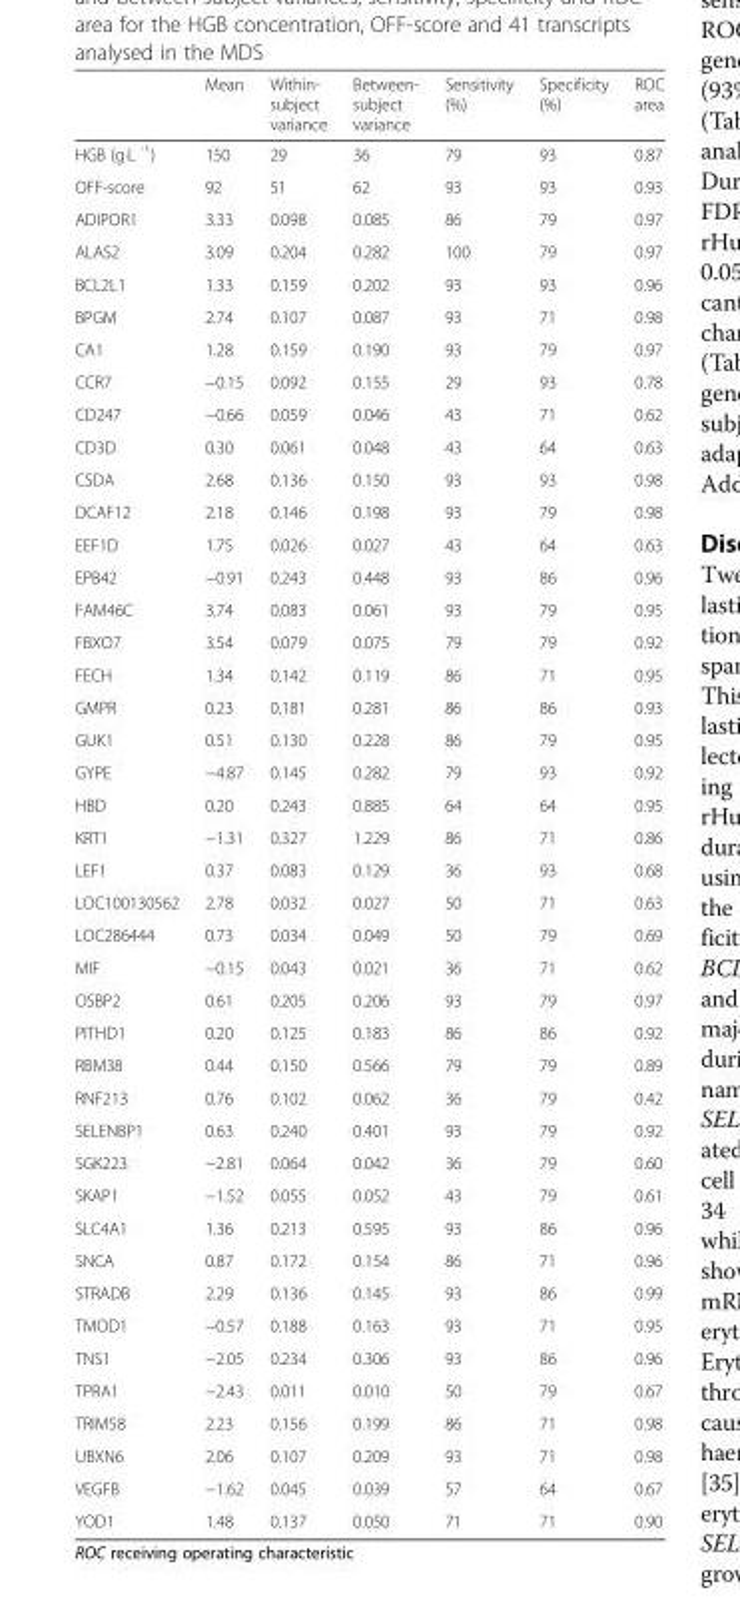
<table><thead><tr><td></td><td>Mean</td><td>Within- subject variance</td><td>Between- subject variance</td><td>Sensitivity (%)</td><td>Specificity (%)</td><td>ROC area</td></tr></thead><tbody><tr><td>HGB (g·L <sup>-1</sup>)</td><td>150</td><td>29</td><td>36</td><td>79</td><td>93</td><td>0.87</td></tr><tr><td>OFF-score</td><td>92</td><td>51</td><td>62</td><td>93</td><td>93</td><td>0.93</td></tr><tr><td>ADIPOR1</td><td>3.33</td><td>0.098</td><td>0.085</td><td>86</td><td>79</td><td>0.97</td></tr><tr><td>ALAS2</td><td>3.09</td><td>0.204</td><td>0.282</td><td>100</td><td>79</td><td>0.97</td></tr><tr><td>BCL2L1</td><td>1.33</td><td>0.159</td><td>0.202</td><td>93</td><td>93</td><td>0.96</td></tr><tr><td>BPGM</td><td>2.74</td><td>0.107</td><td>0.087</td><td>93</td><td>71</td><td>0.98</td></tr><tr><td>CA1</td><td>1.28</td><td>0.159</td><td>0.190</td><td>93</td><td>79</td><td>0.97</td></tr><tr><td>CCR7</td><td>−0.15</td><td>0.092</td><td>0.155</td><td>29</td><td>93</td><td>0.78</td></tr><tr><td>CD247</td><td>−0.66</td><td>0.059</td><td>0.046</td><td>43</td><td>71</td><td>0.62</td></tr><tr><td>CD3D</td><td>0.30</td><td>0.061</td><td>0.048</td><td>43</td><td>64</td><td>0.63</td></tr><tr><td>CSDA</td><td>2.68</td><td>0.136</td><td>0.150</td><td>93</td><td>93</td><td>0.98</td></tr><tr><td>DCAF12</td><td>2.18</td><td>0.146</td><td>0.198</td><td>93</td><td>79</td><td>0.98</td></tr><tr><td>EEF1D</td><td>1.75</td><td>0.026</td><td>0.027</td><td>43</td><td>64</td><td>0.63</td></tr><tr><td>EPB42</td><td>−0.91</td><td>0.243</td><td>0.448</td><td>93</td><td>86</td><td>0.96</td></tr><tr><td>FAM46C</td><td>3.74</td><td>0.083</td><td>0.061</td><td>93</td><td>79</td><td>0.95</td></tr><tr><td>FBXO7</td><td>3.54</td><td>0.079</td><td>0.075</td><td>79</td><td>79</td><td>0.92</td></tr><tr><td>FECH</td><td>1.34</td><td>0.142</td><td>0.119</td><td>86</td><td>71</td><td>0.95</td></tr><tr><td>GMPR</td><td>0.23</td><td>0.181</td><td>0.281</td><td>86</td><td>86</td><td>0.93</td></tr><tr><td>GUK1</td><td>0.51</td><td>0.130</td><td>0.228</td><td>86</td><td>79</td><td>0.95</td></tr><tr><td>GYPE</td><td>−4.87</td><td>0.145</td><td>0.282</td><td>79</td><td>93</td><td>0.92</td></tr><tr><td>HBD</td><td>0.20</td><td>0.243</td><td>0.885</td><td>64</td><td>64</td><td>0.95</td></tr><tr><td>KRT1</td><td>−1.31</td><td>0.327</td><td>1.229</td><td>86</td><td>71</td><td>0.86</td></tr><tr><td>LEF1</td><td>0.37</td><td>0.083</td><td>0.129</td><td>36</td><td>93</td><td>0.68</td></tr><tr><td>LOC100130562</td><td>2.78</td><td>0.032</td><td>0.027</td><td>50</td><td>71</td><td>0.63</td></tr><tr><td>LOC286444</td><td>0.73</td><td>0.034</td><td>0.049</td><td>50</td><td>79</td><td>0.69</td></tr><tr><td>MIF</td><td>−0.15</td><td>0.043</td><td>0.021</td><td>36</td><td>71</td><td>0.62</td></tr><tr><td>OSBP2</td><td>0.61</td><td>0.205</td><td>0.206</td><td>93</td><td>79</td><td>0.97</td></tr><tr><td>PITHD1</td><td>0.20</td><td>0.125</td><td>0.183</td><td>86</td><td>86</td><td>0.92</td></tr><tr><td>RBM38</td><td>0.44</td><td>0.150</td><td>0.566</td><td>79</td><td>79</td><td>0.89</td></tr><tr><td>RNF213</td><td>0.76</td><td>0.102</td><td>0.062</td><td>36</td><td>79</td><td>0.42</td></tr><tr><td>SELENBP1</td><td>0.63</td><td>0.240</td><td>0.401</td><td>93</td><td>79</td><td>0.92</td></tr><tr><td>SGK223</td><td>−2.81</td><td>0.064</td><td>0.042</td><td>36</td><td>79</td><td>0.60</td></tr><tr><td>SKAP1</td><td>−1.52</td><td>0.055</td><td>0.052</td><td>43</td><td>79</td><td>0.61</td></tr><tr><td>SLC4A1</td><td>1.36</td><td>0.213</td><td>0.595</td><td>93</td><td>86</td><td>0.96</td></tr><tr><td>SNCA</td><td>0.87</td><td>0.172</td><td>0.154</td><td>86</td><td>71</td><td>0.96</td></tr><tr><td>STRADB</td><td>2.29</td><td>0.136</td><td>0.145</td><td>93</td><td>86</td><td>0.99</td></tr><tr><td>TMOD1</td><td>−0.57</td><td>0.188</td><td>0.163</td><td>93</td><td>71</td><td>0.95</td></tr><tr><td>TNS1</td><td>−2.05</td><td>0.234</td><td>0.306</td><td>93</td><td>86</td><td>0.96</td></tr><tr><td>TPRA1</td><td>−2.43</td><td>0.011</td><td>0.010</td><td>50</td><td>79</td><td>0.67</td></tr><tr><td>TRIM58</td><td>2.23</td><td>0.156</td><td>0.199</td><td>86</td><td>71</td><td>0.98</td></tr><tr><td>UBXN6</td><td>2.06</td><td>0.107</td><td>0.209</td><td>93</td><td>71</td><td>0.98</td></tr><tr><td>VEGFB</td><td>−1.62</td><td>0.045</td><td>0.039</td><td>57</td><td>64</td><td>0.67</td></tr><tr><td>YOD1</td><td>1.48</td><td>0.137</td><td>0.050</td><td>71</td><td>71</td><td>0.90</td></tr></tbody></table>